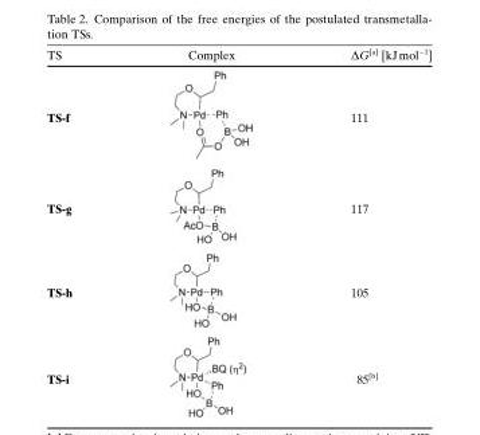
<table><thead><tr><td>TS</td><td>Complex</td><td>ΔG<sup>[a]</sup> [kJmol<sup>−1</sup>]</td></tr></thead><tbody><tr><td>TS-f</td><td></td><td>111</td></tr><tr><td>TS-g</td><td></td><td>117</td></tr><tr><td>TS-h</td><td></td><td>105</td></tr><tr><td>TS-i</td><td></td><td>85<sup>[b]</sup></td></tr></tbody></table>